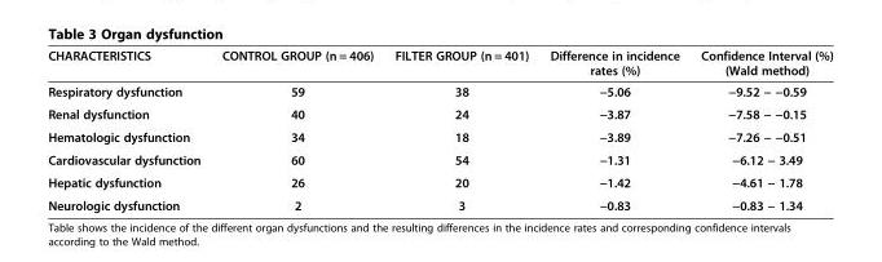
<table><thead><tr><td>CHARACTERISTICS</td><td>CONTROL GROUP (n = 406)</td><td>FILTER GROUP (n = 401)</td><td>Difference in incidence rates (%)</td><td>Confidence Interval (%) (Wald method)</td></tr></thead><tbody><tr><td>Respiratory dysfunction</td><td>59</td><td>38</td><td>−5.06</td><td>−9.52 − −0.59</td></tr><tr><td>Renal dysfunction</td><td>40</td><td>24</td><td>−3.87</td><td>−7.58 − −0.15</td></tr><tr><td>Hematologic dysfunction</td><td>34</td><td>18</td><td>−3.89</td><td>−7.26 − −0.51</td></tr><tr><td>Cardiovascular dysfunction</td><td>60</td><td>54</td><td>−1.31</td><td>−6.12 − 3.49</td></tr><tr><td>Hepatic dysfunction</td><td>26</td><td>20</td><td>−1.42</td><td>−4.61 − 1.78</td></tr><tr><td>Neurologic dysfunction</td><td>2</td><td>3</td><td>−0.83</td><td>−0.83 − 1.34</td></tr></tbody></table>